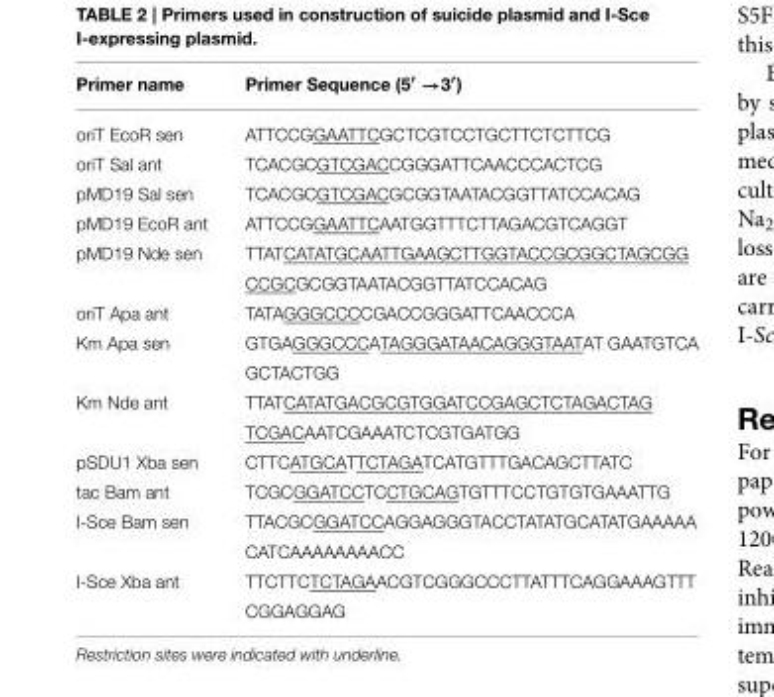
<table><thead><tr><td>Primer name</td><td>Primer Sequence (5′ →3′)</td></tr></thead><tbody><tr><td>oriT EcoR sen</td><td>ATTCCGGAATTCGCTCGTCCTGCTTCTCTTCG</td></tr><tr><td>oriT Sal ant</td><td>TCACGCGTCGACCGGGATTCAACCCACTCG</td></tr><tr><td>pMD19 Sal sen</td><td>TCACGCGTCGACGCGGTAATACGGTTATCCACAG</td></tr><tr><td>pMD19 EcoR ant</td><td>ATTCCGGAATTCAATGGTTTCTTAGACGTCAGGT</td></tr><tr><td rowspan="2">pMD19 Nde sen</td><td>TTATCATATGCAATTGAAGCTTGGTACCGCGGCTAGCGG</td></tr><tr><td>CCGCGCGGTAATACGGTTATCCACAG</td></tr><tr><td>oriT Apa ant</td><td>TATAGGGCCCCGACCGGGATTCAACCCA</td></tr><tr><td rowspan="2">Km Apa sen</td><td>GTGAGGGCCCATAGGGATAACAGGGTAATAT GAATGTCA</td></tr><tr><td>GCTACTGG</td></tr><tr><td rowspan="2">Km Nde ant</td><td>TTATCATATGACGCGTGGATCCGAGCTCTAGACTAG</td></tr><tr><td>TCGACAATCGAAATCTCGTGATGG</td></tr><tr><td>pSDU1 Xba sen</td><td>CTTCATGCATTCTAGATCATGTTTGACAGCTTATC</td></tr><tr><td>tac Bam ant</td><td>TCGCGGATCCTCCTGCAGTGTTTCCTGTGTGAAATTG</td></tr><tr><td rowspan="2">I-Sce Bam sen</td><td>TTACGCGGATCCAGGAGGGTACCTATATGCATATGAAAAA</td></tr><tr><td>CATCAAAAAAAACC</td></tr><tr><td rowspan="2">I-Sce Xba ant</td><td>TTCTTCTCTAGAACGTCGGGCCCTTATTTCAGGAAAGTTT</td></tr><tr><td>CGGAGGAG</td></tr></tbody></table>